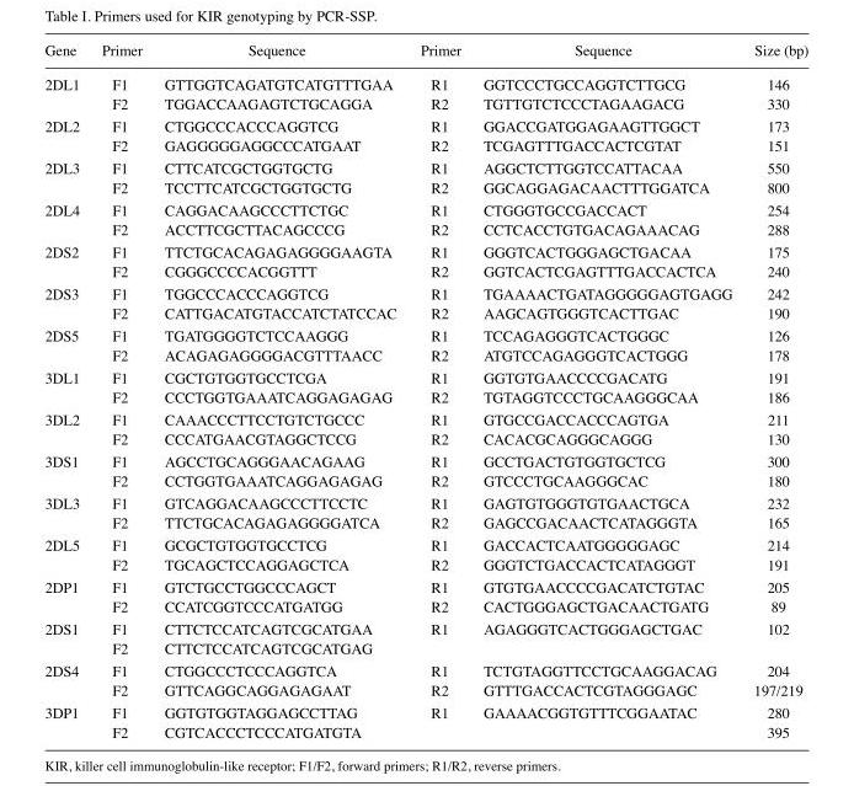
<table><thead><tr><td>Gene</td><td>Primer</td><td>Sequence</td><td>Primer</td><td>Sequence</td><td>Size (bp)</td></tr></thead><tbody><tr><td rowspan="2">2DL1</td><td>F1</td><td>GTTGGTCAGATGTCATGTTTGAA</td><td>R1</td><td>GGTCCCTGCCAGGTCTTGCG</td><td>146</td></tr><tr><td>F2</td><td>TGGACCAAGAGTCTGCAGGA</td><td>R2</td><td>TGTTGTCTCCCTAGAAGACG</td><td>330</td></tr><tr><td rowspan="2">2DL2</td><td>F1</td><td>CTGGCCCACCCAGGTCG</td><td>R1</td><td>GGACCGATGGAGAAGTTGGCT</td><td>173</td></tr><tr><td>F2</td><td>GAGGGGGAGGCCCATGAAT</td><td>R2</td><td>TCGAGTTTGACCACTCGTAT</td><td>151</td></tr><tr><td rowspan="2">2DL3</td><td>F1</td><td>CTTCATCGCTGGTGCTG</td><td>R1</td><td>AGGCTCTTGGTCCATTACAA</td><td>550</td></tr><tr><td>F2</td><td>TCCTTCATCGCTGGTGCTG</td><td>R2</td><td>GGCAGGAGACAACTTTGGATCA</td><td>800</td></tr><tr><td rowspan="2">2DL4</td><td>F1</td><td>CAGGACAAGCCCTTCTGC</td><td>R1</td><td>CTGGGTGCCGACCACT</td><td>254</td></tr><tr><td>F2</td><td>ACCTTCGCTTACAGCCCG</td><td>R2</td><td>CCTCACCTGTGACAGAAACAG</td><td>288</td></tr><tr><td rowspan="2">2DS2</td><td>F1</td><td>TTCTGCACAGAGAGGGGAAGTA</td><td>R1</td><td>GGGTCACTGGGAGCTGACAA</td><td>175</td></tr><tr><td>F2</td><td>CGGGCCCCACGGTTT</td><td>R2</td><td>GGTCACTCGAGTTTGACCACTCA</td><td>240</td></tr><tr><td rowspan="2">2DS3</td><td>F1</td><td>TGGCCCACCCAGGTCG</td><td>R1</td><td>TGAAAACTGATAGGGGGAGTGAGG</td><td>242</td></tr><tr><td>F2</td><td>CATTGACATGTACCATCTATCCAC</td><td>R2</td><td>AAGCAGTGGGTCACTTGAC</td><td>190</td></tr><tr><td rowspan="2">2DS5</td><td>F1</td><td>TGATGGGGTCTCCAAGGG</td><td>R1</td><td>TCCAGAGGGTCACTGGGC</td><td>126</td></tr><tr><td>F2</td><td>ACAGAGAGGGGACGTTTAACC</td><td>R2</td><td>ATGTCCAGAGGGTCACTGGG</td><td>178</td></tr><tr><td rowspan="2">3DL1</td><td>F1</td><td>CGCTGTGGTGCCTCGA</td><td>R1</td><td>GGTGTGAACCCCGACATG</td><td>191</td></tr><tr><td>F2</td><td>CCCTGGTGAAATCAGGAGAGAG</td><td>R2</td><td>TGTAGGTCCCTGCAAGGGCAA</td><td>186</td></tr><tr><td rowspan="2">3DL2</td><td>F1</td><td>CAAACCCTTCCTGTCTGCCC</td><td>R1</td><td>GTGCCGACCACCCAGTGA</td><td>211</td></tr><tr><td>F2</td><td>CCCATGAACGTAGGCTCCG</td><td>R2</td><td>CACACGCAGGGCAGGG</td><td>130</td></tr><tr><td rowspan="2">3DS1</td><td>F1</td><td>AGCCTGCAGGGAACAGAAG</td><td>R1</td><td>GCCTGACTGTGGTGCTCG</td><td>300</td></tr><tr><td>F2</td><td>CCTGGTGAAATCAGGAGAGAG</td><td>R2</td><td>GTCCCTGCAAGGGCAC</td><td>180</td></tr><tr><td rowspan="2">3DL3</td><td>F1</td><td>GTCAGGACAAGCCCTTCCTC</td><td>R1</td><td>GAGTGTGGGTGTGAACTGCA</td><td>232</td></tr><tr><td>F2</td><td>TTCTGCACAGAGAGGGGATCA</td><td>R2</td><td>GAGCCGACAACTCATAGGGTA</td><td>165</td></tr><tr><td rowspan="2">2DL5</td><td>F1</td><td>GCGCTGTGGTGCCTCG</td><td>R1</td><td>GACCACTCAATGGGGGAGC</td><td>214</td></tr><tr><td>F2</td><td>TGCAGCTCCAGGAGCTCA</td><td>R2</td><td>GGGTCTGACCACTCATAGGGT</td><td>191</td></tr><tr><td rowspan="2">2DP1</td><td>F1</td><td>GTCTGCCTGGCCCAGCT</td><td>R1</td><td>GTGTGAACCCCGACATCTGTAC</td><td>205</td></tr><tr><td>F2</td><td>CCATCGGTCCCATGATGG</td><td>R2</td><td>CACTGGGAGCTGACAACTGATG</td><td>89</td></tr><tr><td rowspan="2">2DS1</td><td>F1</td><td>CTTCTCCATCAGTCGCATGAA</td><td>R1</td><td>AGAGGGTCACTGGGAGCTGAC</td><td>102</td></tr><tr><td>F2</td><td>CTTCTCCATCAGTCGCATGAG</td><td></td><td></td><td></td></tr><tr><td rowspan="2">2DS4</td><td>F1</td><td>CTGGCCCTCCCAGGTCA</td><td>R1</td><td>TCTGTAGGTTCCTGCAAGGACAG</td><td>204</td></tr><tr><td>F2</td><td>GTTCAGGCAGGAGAGAAT</td><td>R2</td><td>GTTTGACCACTCGTAGGGAGC</td><td>197/219</td></tr><tr><td rowspan="2">3DP1</td><td>F1</td><td>GGTGTGGTAGGAGCCTTAG</td><td>R1</td><td>GAAAACGGTGTTTCGGAATAC</td><td>280</td></tr><tr><td>F2</td><td>CGTCACCCTCCCATGATGTA</td><td></td><td></td><td>395</td></tr></tbody></table>